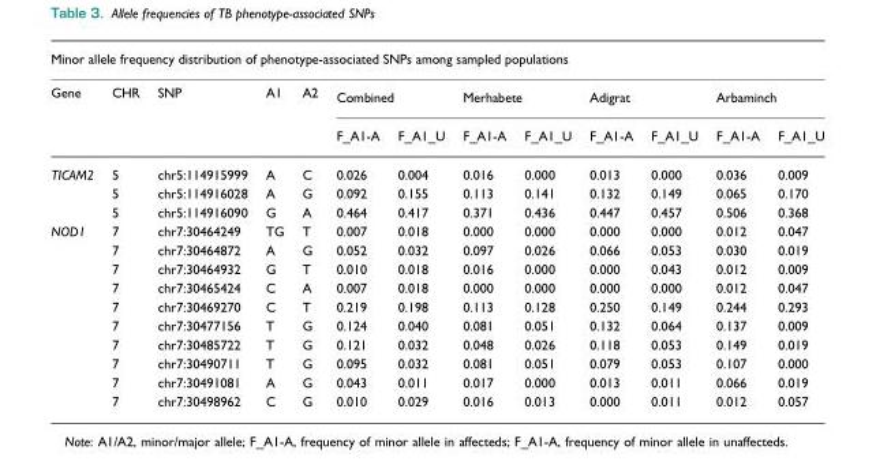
<table><thead><tr><td colspan="13">Minor allele frequency distribution of phenotype-associated SNPs among sampled populations</td></tr><tr><td rowspan="2">Gene</td><td rowspan="2">CHR</td><td rowspan="2">SNP</td><td rowspan="2">A1</td><td rowspan="2">A2</td><td colspan="2">Combined</td><td colspan="2">Merhabete</td><td colspan="2">Adigrat</td><td colspan="2">Arbaminch</td></tr><tr><td>F_A1-A</td><td>F_A1_U</td><td>F_A1-A</td><td>F_A1_U</td><td>F_A1-A</td><td>F_A1_U</td><td>F_A1-A</td><td>F_A1_U</td></tr></thead><tbody><tr><td rowspan="3">TICAM2</td><td>5</td><td>chr5:114915999</td><td>A</td><td>C</td><td>0.026</td><td>0.004</td><td>0.016</td><td>0.000</td><td>0.013</td><td>0.000</td><td>0.036</td><td>0.009</td></tr><tr><td>5</td><td>chr5:114916028</td><td>A</td><td>G</td><td>0.092</td><td>0.155</td><td>0.113</td><td>0.141</td><td>0.132</td><td>0.149</td><td>0.065</td><td>0.170</td></tr><tr><td>5</td><td>chr5:114916090</td><td>G</td><td>A</td><td>0.464</td><td>0.417</td><td>0.371</td><td>0.436</td><td>0.447</td><td>0.457</td><td>0.506</td><td>0.368</td></tr><tr><td rowspan="10">NOD1</td><td>7</td><td>chr7:30464249</td><td>TG</td><td>T</td><td>0.007</td><td>0.018</td><td>0.000</td><td>0.000</td><td>0.000</td><td>0.000</td><td>0.012</td><td>0.047</td></tr><tr><td>7</td><td>chr7:30464872</td><td>A</td><td>G</td><td>0.052</td><td>0.032</td><td>0.097</td><td>0.026</td><td>0.066</td><td>0.053</td><td>0.030</td><td>0.019</td></tr><tr><td>7</td><td>chr7:30464932</td><td>G</td><td>T</td><td>0.010</td><td>0.018</td><td>0.016</td><td>0.000</td><td>0.000</td><td>0.043</td><td>0.012</td><td>0.009</td></tr><tr><td>7</td><td>chr7:30465424</td><td>C</td><td>A</td><td>0.007</td><td>0.018</td><td>0.000</td><td>0.000</td><td>0.000</td><td>0.000</td><td>0.012</td><td>0.047</td></tr><tr><td>7</td><td>chr7:30469270</td><td>C</td><td>T</td><td>0.219</td><td>0.198</td><td>0.113</td><td>0.128</td><td>0.250</td><td>0.149</td><td>0.244</td><td>0.293</td></tr><tr><td>7</td><td>chr7:30477156</td><td>T</td><td>G</td><td>0.124</td><td>0.040</td><td>0.081</td><td>0.051</td><td>0.132</td><td>0.064</td><td>0.137</td><td>0.009</td></tr><tr><td>7</td><td>chr7:30485722</td><td>T</td><td>G</td><td>0.121</td><td>0.032</td><td>0.048</td><td>0.026</td><td>0.118</td><td>0.053</td><td>0.149</td><td>0.019</td></tr><tr><td>7</td><td>chr7:30490711</td><td>T</td><td>G</td><td>0.095</td><td>0.032</td><td>0.081</td><td>0.051</td><td>0.079</td><td>0.053</td><td>0.107</td><td>0.000</td></tr><tr><td>7</td><td>chr7:30491081</td><td>A</td><td>G</td><td>0.043</td><td>0.011</td><td>0.017</td><td>0.000</td><td>0.013</td><td>0.011</td><td>0.066</td><td>0.019</td></tr><tr><td>7</td><td>chr7:30498962</td><td>C</td><td>G</td><td>0.010</td><td>0.029</td><td>0.016</td><td>0.013</td><td>0.000</td><td>0.011</td><td>0.012</td><td>0.057</td></tr></tbody></table>